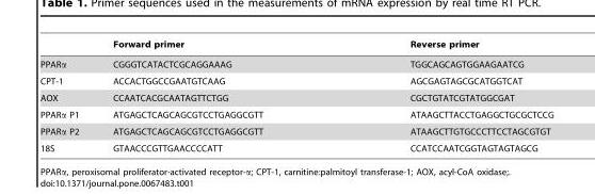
<table><thead><tr><td></td><td>Forward primer</td><td>Reverse primer</td></tr></thead><tbody><tr><td>PPARα</td><td>CGGGTCATACTCGCAGGAAAG</td><td>TGGCAGCAGTGGAAGAATCG</td></tr><tr><td>CPT-1</td><td>ACCACTGGCCGAATGTCAAG</td><td>AGCGAGTAGCGCATGGTCAT</td></tr><tr><td>AOX</td><td>CCAATCACGCAATAGTTCTGG</td><td>CGCTGTATCGTATGGCGAT</td></tr><tr><td>PPARα P1</td><td>ATGAGCTCAGCAGCGTCCTGAGGCGTT</td><td>ATAAGCTTACCTGAGGCTGCGCTCCG</td></tr><tr><td>PPARα P2</td><td>ATGAGCTCAGCAGCGTCCTGAGGCGTT</td><td>ATAAGCTTGTGCCCTTCCTAGCGTGT</td></tr><tr><td>18S</td><td>GTAACCCGTTGAACCCCATT</td><td>CCATCCAATCGGTAGTAGTAGCG</td></tr></tbody></table>